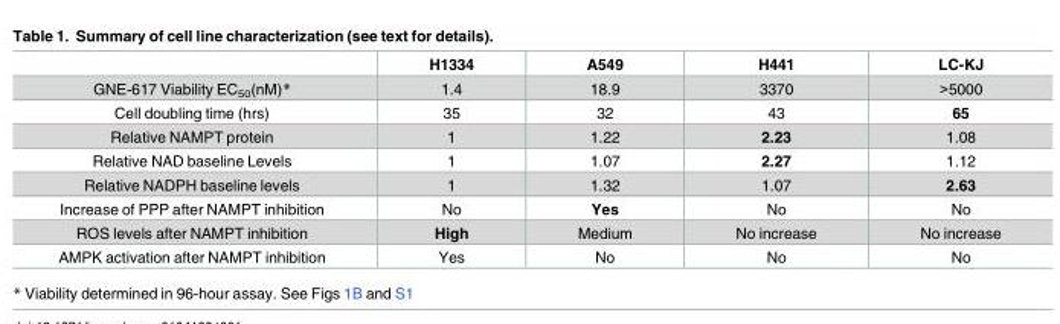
<table><thead><tr><td></td><td>H1334</td><td>A549</td><td>H441</td><td>LC-KJ</td></tr></thead><tbody><tr><td>GNE-617 Viability EC<sub>50</sub>(nM)*</td><td>1.4</td><td>18.9</td><td>3370</td><td>&gt;5000</td></tr><tr><td>Cell doubling time (hrs)</td><td>35</td><td>32</td><td>43</td><td>65</td></tr><tr><td>Relative NAMPT protein</td><td>1</td><td>1.22</td><td>2.23</td><td>1.08</td></tr><tr><td>Relative NAD baseline Levels</td><td>1</td><td>1.07</td><td>2.27</td><td>1.12</td></tr><tr><td>Relative NADPH baseline levels</td><td>1</td><td>1.32</td><td>1.07</td><td>2.63</td></tr><tr><td>Increase of PPP after NAMPT inhibition</td><td>No</td><td>Yes</td><td>No</td><td>No</td></tr><tr><td>ROS levels after NAMPT inhibition</td><td>High</td><td>Medium</td><td>No increase</td><td>No increase</td></tr><tr><td>AMPK activation after NAMPT inhibition</td><td>Yes</td><td>No</td><td>No</td><td>No</td></tr></tbody></table>